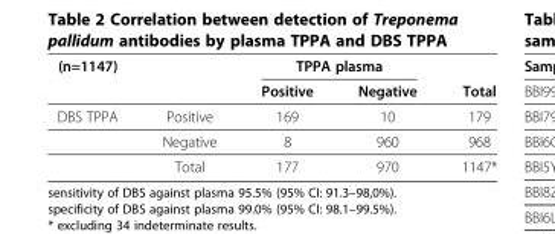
<table><thead><tr><td rowspan="2">(n=1147)</td><td rowspan="2"></td><td colspan="2">TPPA plasma</td><td rowspan="2">Total</td></tr><tr><td>Positive</td><td>Negative</td></tr></thead><tbody><tr><td rowspan="3">DBS TPPA</td><td>Positive</td><td>169</td><td>10</td><td>179</td></tr><tr><td>Negative</td><td>8</td><td>960</td><td>968</td></tr><tr><td>Total</td><td>177</td><td>970</td><td>1147*</td></tr></tbody></table>